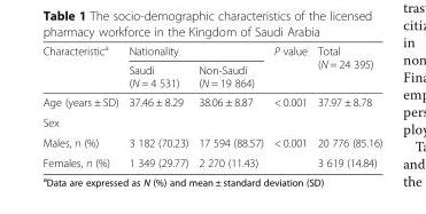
<table><thead><tr><td rowspan="2">Characteristic<sup>a</sup></td><td colspan="2">Nationality</td><td rowspan="2">P value</td><td rowspan="2">Total (N = 24 395)</td></tr><tr><td>Saudi (N = 4 531)</td><td>Non-Saudi (N = 19 864)</td></tr></thead><tbody><tr><td>Age (years ± SD)</td><td>37.46 ± 8.29</td><td>38.06 ± 8.87</td><td>&lt; 0.001</td><td>37.97 ± 8.78</td></tr><tr><td colspan="5">Sex</td></tr><tr><td>Males, n (%)</td><td>3 182 (70.23)</td><td>17 594 (88.57)</td><td rowspan="2">&lt; 0.001</td><td>20 776 (85.16)</td></tr><tr><td>Females, n (%)</td><td>1 349 (29.77)</td><td>2 270 (11.43)</td><td>3 619 (14.84)</td></tr></tbody></table>